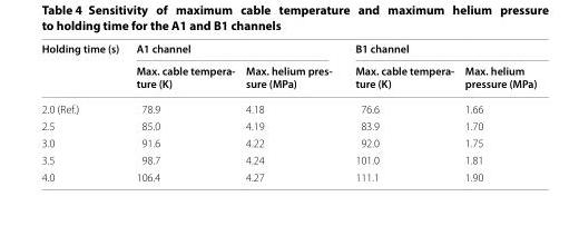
<table><thead><tr><td rowspan="2">Holding time (s)</td><td colspan="2">A1 channel</td><td colspan="2">B1 channel</td></tr><tr><td>Max. cable tempera- ture (K)</td><td>Max. helium pres- sure (MPa)</td><td>Max. cable tempera- ture (K)</td><td>Max. helium pressure (MPa)</td></tr></thead><tbody><tr><td>2.0 (Ref.)</td><td>78.9</td><td>4.18</td><td>76.6</td><td>1.66</td></tr><tr><td>2.5</td><td>85.0</td><td>4.19</td><td>83.9</td><td>1.70</td></tr><tr><td>3.0</td><td>91.6</td><td>4.22</td><td>92.0</td><td>1.75</td></tr><tr><td>3.5</td><td>98.7</td><td>4.24</td><td>101.0</td><td>1.81</td></tr><tr><td>4.0</td><td>106.4</td><td>4.27</td><td>111.1</td><td>1.90</td></tr></tbody></table>